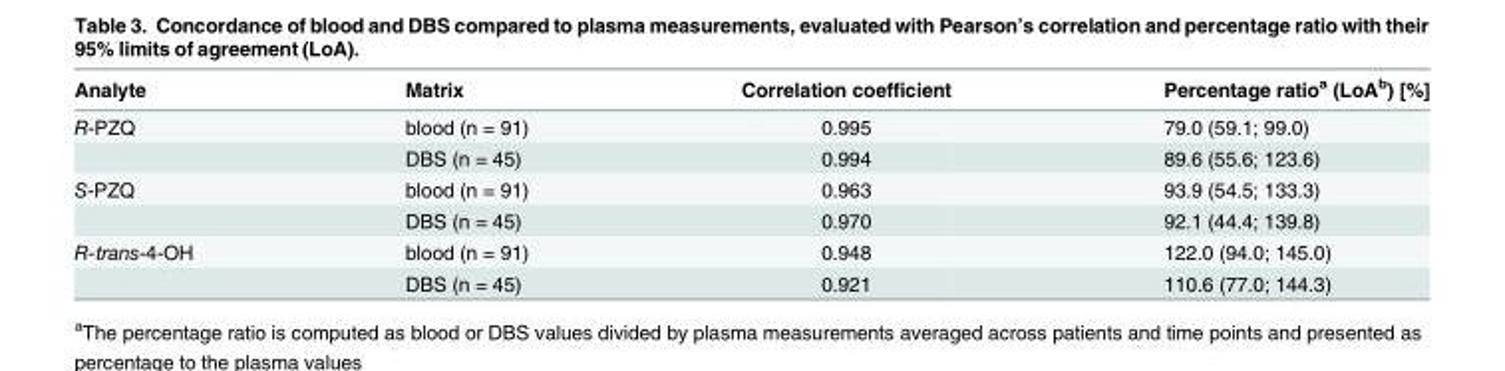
<table><thead><tr><td>Analyte</td><td>Matrix</td><td>Correlation coefficient</td><td>Percentage ratio<sup>a</sup> (LoA<sup>b</sup>) [%]</td></tr></thead><tbody><tr><td rowspan="2">R-PZQ</td><td>blood (n = 91)</td><td>0.995</td><td>79.0 (59.1; 99.0)</td></tr><tr><td>DBS (n = 45)</td><td>0.994</td><td>89.6 (55.6; 123.6)</td></tr><tr><td rowspan="2">S-PZQ</td><td>blood (n = 91)</td><td>0.963</td><td>93.9 (54.5; 133.3)</td></tr><tr><td>DBS (n = 45)</td><td>0.970</td><td>92.1 (44.4; 139.8)</td></tr><tr><td rowspan="2">R-trans-4-OH</td><td>blood (n = 91)</td><td>0.948</td><td>122.0 (94.0; 145.0)</td></tr><tr><td>DBS (n = 45)</td><td>0.921</td><td>110.6 (77.0; 144.3)</td></tr></tbody></table>